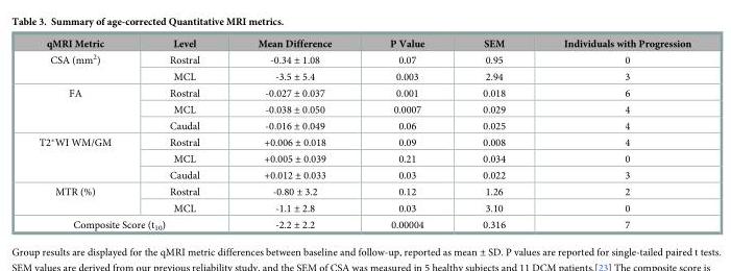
<table><thead><tr><td>qMRI Metric</td><td>Level</td><td>Mean Difference</td><td>P Value</td><td>SEM</td><td>Individuals with Progression</td></tr></thead><tbody><tr><td rowspan="2">CSA (mm<sup>2</sup>)</td><td>Rostral</td><td>-0.34 ± 1.08</td><td>0.07</td><td>0.95</td><td>0</td></tr><tr><td>MCL</td><td>-3.5 ± 5.4</td><td>0.003</td><td>2.94</td><td>3</td></tr><tr><td rowspan="3">FA</td><td>Rostral</td><td>-0.027 ± 0.037</td><td>0.001</td><td>0.018</td><td>6</td></tr><tr><td>MCL</td><td>-0.038 ± 0.050</td><td>0.0007</td><td>0.029</td><td>4</td></tr><tr><td>Caudal</td><td>-0.016 ± 0.049</td><td>0.06</td><td>0.025</td><td>4</td></tr><tr><td rowspan="3">T2*WI WM/GM</td><td>Rostral</td><td>+0.006 ± 0.018</td><td>0.09</td><td>0.008</td><td>4</td></tr><tr><td>MCL</td><td>+0.005 ± 0.039</td><td>0.21</td><td>0.034</td><td>0</td></tr><tr><td>Caudal</td><td>+0.012 ± 0.033</td><td>0.03</td><td>0.022</td><td>3</td></tr><tr><td rowspan="2">MTR (%)</td><td>Rostral</td><td>-0.80 ± 3.2</td><td>0.12</td><td>1.26</td><td>2</td></tr><tr><td>MCL</td><td>-1.1 ± 2.8</td><td>0.03</td><td>3.10</td><td>0</td></tr><tr><td colspan="2">Composite Score (t<sub>10</sub>)</td><td>-2.2 ± 2.2</td><td>0.00004</td><td>0.316</td><td>7</td></tr></tbody></table>